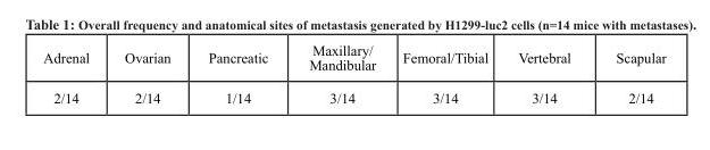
<table><thead><tr><td>Adrenal</td><td>Ovarian</td><td>Pancreatic</td><td>Maxillary/ Mandibular</td><td>Femoral/Tibial</td><td>Vertebral</td><td>Scapular</td></tr></thead><tbody><tr><td>2/14</td><td>2/14</td><td>1/14</td><td>3/14</td><td>3/14</td><td>3/14</td><td>2/14</td></tr></tbody></table>